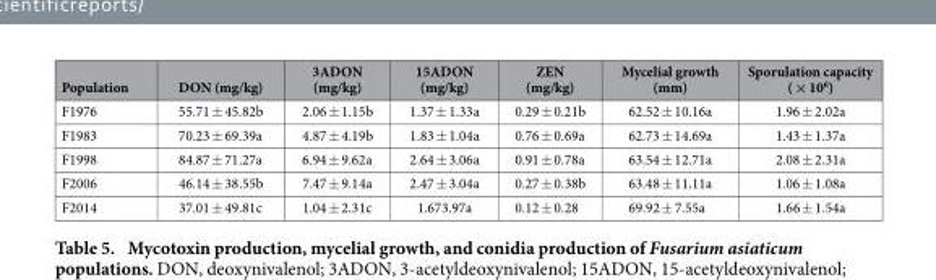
<table><thead><tr><td>Population</td><td>DON (mg/kg)</td><td>3ADON (mg/kg)</td><td>15ADON (mg/kg)</td><td>ZEN (mg/kg)</td><td>Mycelial growth (mm)</td><td>Sporulation capacity ( × 10<sup>6</sup>)</td></tr></thead><tbody><tr><td>F1976</td><td>55.71 ± 45.82b</td><td>2.06 ± 1.15b</td><td>1.37 ± 1.33a</td><td>0.29 ± 0.21b</td><td>62.52 ± 10.16a</td><td>1.96 ± 2.02a</td></tr><tr><td>F1983</td><td>70.23 ± 69.39a</td><td>4.87 ± 4.19b</td><td>1.83 ± 1.04a</td><td>0.76 ± 0.69a</td><td>62.73 ± 14.69a</td><td>1.43 ± 1.37a</td></tr><tr><td>F1998</td><td>84.87 ± 71.27a</td><td>6.94 ± 9.62a</td><td>2.64 ± 3.06a</td><td>0.91 ± 0.78a</td><td>63.54 ± 12.71a</td><td>2.08 ± 2.31a</td></tr><tr><td>F2006</td><td>46.14 ± 38.55b</td><td>7.47 ± 9.14a</td><td>2.47 ± 3.04a</td><td>0.27 ± 0.38b</td><td>63.48 ± 11.11a</td><td>1.06 ± 1.08a</td></tr><tr><td>F2014</td><td>37.01 ± 49.81c</td><td>1.04 ± 2.31c</td><td>1.673.97a</td><td>0.12 ± 0.28</td><td>69.92 ± 7.55a</td><td>1.66 ± 1.54a</td></tr></tbody></table>